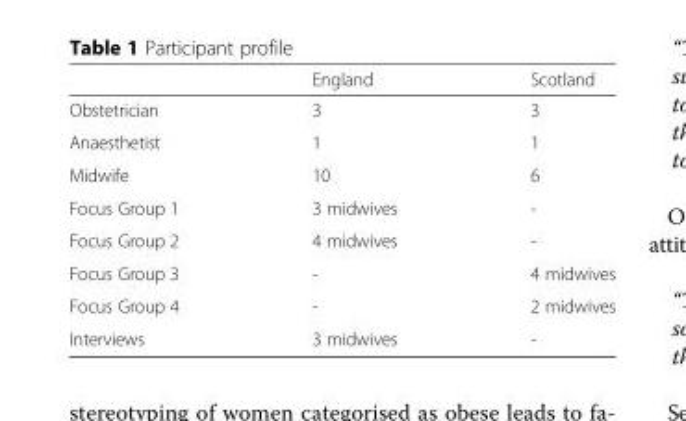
<table><thead><tr><td></td><td>England</td><td>Scotland</td></tr></thead><tbody><tr><td>Obstetrician</td><td>3</td><td>3</td></tr><tr><td>Anaesthetist</td><td>1</td><td>1</td></tr><tr><td>Midwife</td><td>10</td><td>6</td></tr><tr><td>Focus Group 1</td><td>3 midwives</td><td>-</td></tr><tr><td>Focus Group 2</td><td>4 midwives</td><td>-</td></tr><tr><td>Focus Group 3</td><td>-</td><td>4 midwives</td></tr><tr><td>Focus Group 4</td><td>-</td><td>2 midwives</td></tr><tr><td>Interviews</td><td>3 midwives</td><td>-</td></tr></tbody></table>